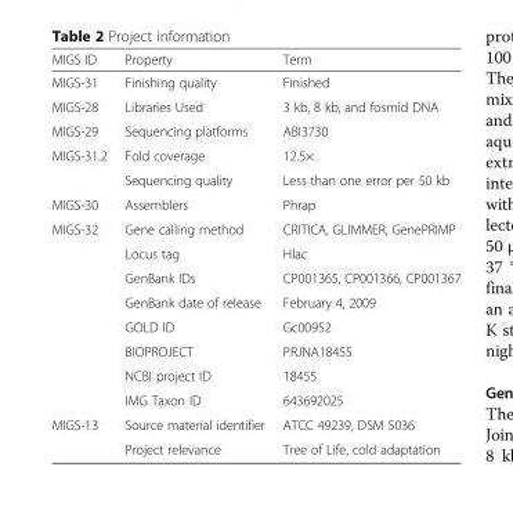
<table><thead><tr><td>MIGS ID</td><td>Property</td><td>Term</td></tr></thead><tbody><tr><td>MIGS-31</td><td>Finishing quality</td><td>Finished</td></tr><tr><td>MIGS-28</td><td>Libraries Used</td><td>3 kb, 8 kb, and fosmid DNA</td></tr><tr><td>MIGS-29</td><td>Sequencing platforms</td><td>ABI3730</td></tr><tr><td rowspan="2">MIGS-31.2</td><td>Fold coverage</td><td>12.5×</td></tr><tr><td>Sequencing quality</td><td>Less than one error per 50 kb</td></tr><tr><td>MIGS-30</td><td>Assemblers</td><td>Phrap</td></tr><tr><td rowspan="8">MIGS-32</td><td>Gene calling method</td><td>CRITICA, GLIMMER, GenePRIMP</td></tr><tr><td>Locus tag</td><td>Hlac</td></tr><tr><td>GenBank IDs</td><td>CP001365, CP001366, CP001367</td></tr><tr><td>GenBank date of release</td><td>February 4, 2009</td></tr><tr><td>GOLD ID</td><td>Gc00952</td></tr><tr><td>BIOPROJECT</td><td>PRJNA18455</td></tr><tr><td>NCBI project ID</td><td>18455</td></tr><tr><td>IMG Taxon ID</td><td>643692025</td></tr><tr><td rowspan="2">MIGS-13</td><td>Source material identifier</td><td>ATCC 49239, DSM 5036</td></tr><tr><td>Project relevance</td><td>Tree of Life, cold adaptation</td></tr></tbody></table>